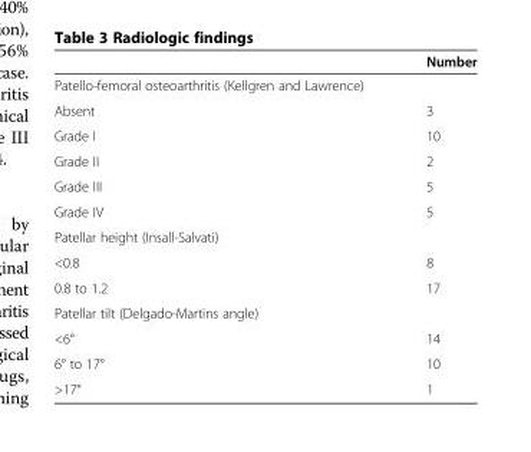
<table><thead><tr><td></td><td>Number</td></tr></thead><tbody><tr><td colspan="2">Patello-femoral osteoarthritis (Kellgren and Lawrence)</td></tr><tr><td>Absent</td><td>3</td></tr><tr><td>Grade I</td><td>10</td></tr><tr><td>Grade II</td><td>2</td></tr><tr><td>Grade III</td><td>5</td></tr><tr><td>Grade IV</td><td>5</td></tr><tr><td colspan="2">Patellar height (Insall-Salvati)</td></tr><tr><td>&lt;0.8</td><td>8</td></tr><tr><td>0.8 to 1.2</td><td>17</td></tr><tr><td colspan="2">Patellar tilt (Delgado-Martins angle)</td></tr><tr><td>&lt;6°</td><td>14</td></tr><tr><td>6° to 17°</td><td>10</td></tr><tr><td>&gt;17°</td><td>1</td></tr></tbody></table>